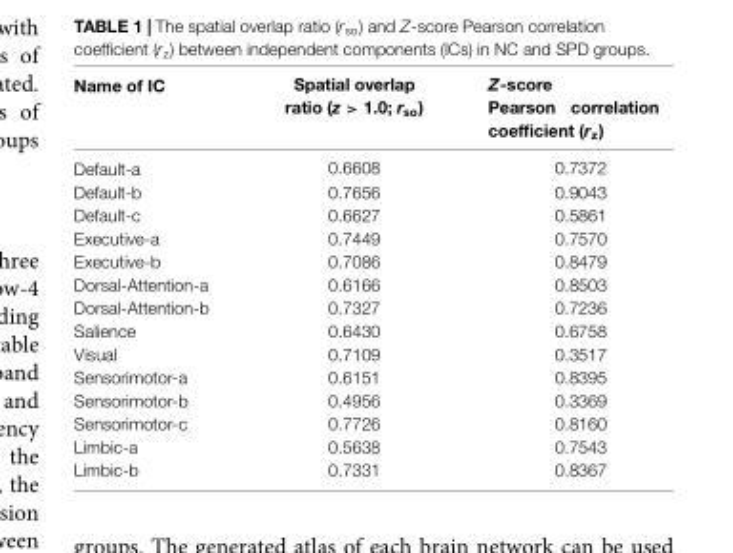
<table><thead><tr><td>Name of IC</td><td>Spatial overlap ratio (z &gt; 1.0; r<sub>so</sub>)</td><td>Z-score Pearson correlation coefficient (r<sub>z</sub>)</td></tr></thead><tbody><tr><td>Default-a</td><td>0.6608</td><td>0.7372</td></tr><tr><td>Default-b</td><td>0.7656</td><td>0.9043</td></tr><tr><td>Default-c</td><td>0.6627</td><td>0.5861</td></tr><tr><td>Executive-a</td><td>0.7449</td><td>0.7570</td></tr><tr><td>Executive-b</td><td>0.7086</td><td>0.8479</td></tr><tr><td>Dorsal-Attention-a</td><td>0.6166</td><td>0.8503</td></tr><tr><td>Dorsal-Attention-b</td><td>0.7327</td><td>0.7236</td></tr><tr><td>Salience</td><td>0.6430</td><td>0.6758</td></tr><tr><td>Visual</td><td>0.7109</td><td>0.3517</td></tr><tr><td>Sensorimotor-a</td><td>0.6151</td><td>0.8395</td></tr><tr><td>Sensorimotor-b</td><td>0.4956</td><td>0.3369</td></tr><tr><td>Sensorimotor-c</td><td>0.7726</td><td>0.8160</td></tr><tr><td>Limbic-a</td><td>0.5638</td><td>0.7543</td></tr><tr><td>Limbic-b</td><td>0.7331</td><td>0.8367</td></tr></tbody></table>